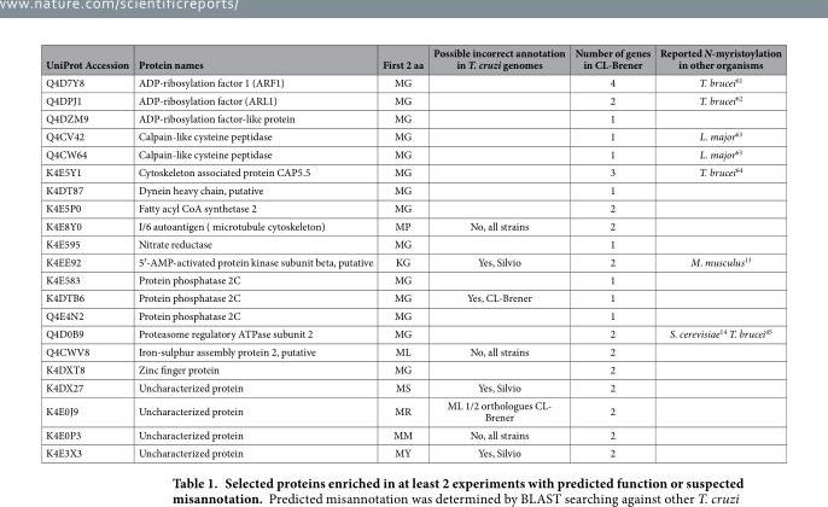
<table><thead><tr><td>UniProt Accession</td><td>Protein names</td><td>First 2 aa</td><td>Possible incorrect annotation in T. cruzi genomes</td><td>Number of genes in CL-Brener</td><td>Reported N-myristoylation in other organisms</td></tr></thead><tbody><tr><td>Q4D7Y8</td><td>ADP-ribosylation factor 1 (ARF1)</td><td>MG</td><td></td><td>4</td><td>T. brucei<sup>61</sup></td></tr><tr><td>Q4DPJ1</td><td>ADP-ribosylation factor (ARL1)</td><td>MG</td><td></td><td>2</td><td>T. brucei<sup>62</sup></td></tr><tr><td>Q4DZM9</td><td>ADP-ribosylation factor-like protein</td><td>MG</td><td></td><td>1</td><td></td></tr><tr><td>Q4CV42</td><td>Calpain-like cysteine peptidase</td><td>MG</td><td></td><td>1</td><td>L. major<sup>63</sup></td></tr><tr><td>Q4CW64</td><td>Calpain-like cysteine peptidase</td><td>MG</td><td></td><td>1</td><td>L. major<sup>63</sup></td></tr><tr><td>K4E5Y1</td><td>Cytoskeleton associated protein CAP5.5</td><td>MG</td><td></td><td>3</td><td>T. brucei<sup>64</sup></td></tr><tr><td>K4DT87</td><td>Dynein heavy chain, putative</td><td>MG</td><td></td><td>1</td><td></td></tr><tr><td>K4E5P0</td><td>Fatty acyl CoA synthetase 2</td><td>MG</td><td></td><td>2</td><td></td></tr><tr><td>K4E8Y0</td><td>I/6 autoantigen ( microtubule cytoskeleton)</td><td>MP</td><td>No, all strains</td><td>2</td><td></td></tr><tr><td>K4E595</td><td>Nitrate reductase</td><td>MG</td><td></td><td>1</td><td></td></tr><tr><td>K4EE92</td><td>5′ -AMP-activated protein kinase subunit beta, putative</td><td>KG</td><td>Yes, Silvio</td><td>2</td><td>M. musculus<sup>13</sup></td></tr><tr><td>K4E583</td><td>Protein phosphatase 2C</td><td>MG</td><td></td><td>1</td><td></td></tr><tr><td>K4DTB6</td><td>Protein phosphatase 2C</td><td>MG</td><td>Yes, CL-Brener</td><td>1</td><td></td></tr><tr><td>Q4E4N2</td><td>Protein phosphatase 2C</td><td>MG</td><td></td><td>1</td><td></td></tr><tr><td>Q4D0B9</td><td>Proteasome regulatory ATPase subunit 2</td><td>MG</td><td></td><td>2</td><td>S. cerevisiae<sup>14</sup> T. brucei<sup>45</sup></td></tr><tr><td>Q4CWV8</td><td>Iron-sulphur assembly protein 2, putative</td><td>ML</td><td>No, all strains</td><td>2</td><td></td></tr><tr><td>K4DXT8</td><td>Zinc finger protein</td><td>MG</td><td></td><td>2</td><td></td></tr><tr><td>K4DX27</td><td>Uncharacterized protein</td><td>MS</td><td>Yes, Silvio</td><td>2</td><td></td></tr><tr><td>K4E0J9</td><td>Uncharacterized protein</td><td>MR</td><td>ML 1/2 orthologues CL- Brener</td><td>2</td><td></td></tr><tr><td>K4E0P3</td><td>Uncharacterized protein</td><td>MM</td><td>No, all strains</td><td>2</td><td></td></tr><tr><td>K4E3X3</td><td>Uncharacterized protein</td><td>MY</td><td>Yes, Silvio</td><td>2</td><td></td></tr></tbody></table>